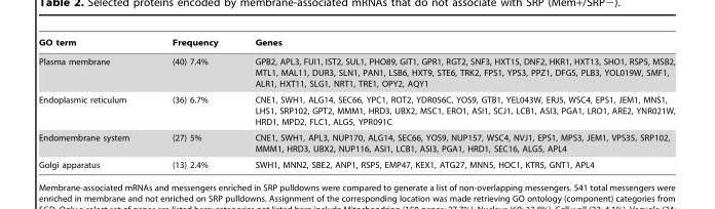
<table><thead><tr><td>GO term</td><td>Frequency</td><td>Genes</td></tr></thead><tbody><tr><td>Plasma membrane</td><td>(40) 7.4%</td><td>GPB2, APL3, FUI1, IST2, SUL1, PHO89, GIT1, GPR1, RGT2, SNF3, HXT15, DNF2, HKR1, HXT13, SHO1, RSP5, MSB2, MTL1, MAL11, DUR3, SLN1, PAN1, LSB6, HXT9, STE6, TRK2, FPS1, YPS3, PPZ1, DFG5, PLB3, YOL019W, SMF1, ALR1, HXT11, SLG1, NRT1, TRE1, OPY2, AQY1</td></tr><tr><td>Endoplasmic reticulum</td><td>(36) 6.7%</td><td>CNE1, SWH1, ALG14, SEC66, YPC1, ROT2, YDR056C, YOS9, GTB1, YEL043W, ERJ5, WSC4, EPS1, JEM1, MNS1, LHS1, SRP102, GPT2, MMM1, HRD3, UBX2, MSC1, ERO1, ASI1, SCJ1, LCB1, ASI3, PGA1, LRO1, ARE2, YNR021W, HRD1, MPD2, FLC1, ALG5, YPR091C</td></tr><tr><td>Endomembrane system</td><td>(27) 5%</td><td>CNE1, SWH1, APL3, NUP170, ALG14, SEC66, YOS9, NUP157, WSC4, NVJ1, EPS1, MPS3, JEM1, VPS35, SRP102, MMM1, HRD3, UBX2, NUP116, ASI1, LCB1, ASI3, PGA1, HRD1, SEC16, ALG5, APL4</td></tr><tr><td>Golgi apparatus</td><td>(13) 2.4%</td><td>SWH1, MNN2, SBE2, ANP1, RSP5, EMP47, KEX1, ATG27, MNN5, HOC1, KTR5, GNT1, APL4</td></tr></tbody></table>